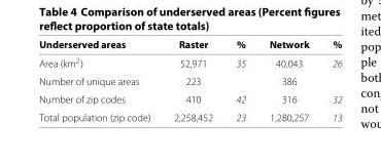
<table><thead><tr><td>Underserved areas</td><td>Raster</td><td>%</td><td>Network</td><td>%</td></tr></thead><tbody><tr><td>Area (km<sup>2</sup>)</td><td>52,971</td><td>35</td><td>40,043</td><td>26</td></tr><tr><td>Number of unique areas</td><td>223</td><td></td><td>386</td><td></td></tr><tr><td>Number of zip codes</td><td>410</td><td>42</td><td>316</td><td>32</td></tr><tr><td>Total population (zip code)</td><td>2,258,452</td><td>23</td><td>1,280,257</td><td>13</td></tr></tbody></table>